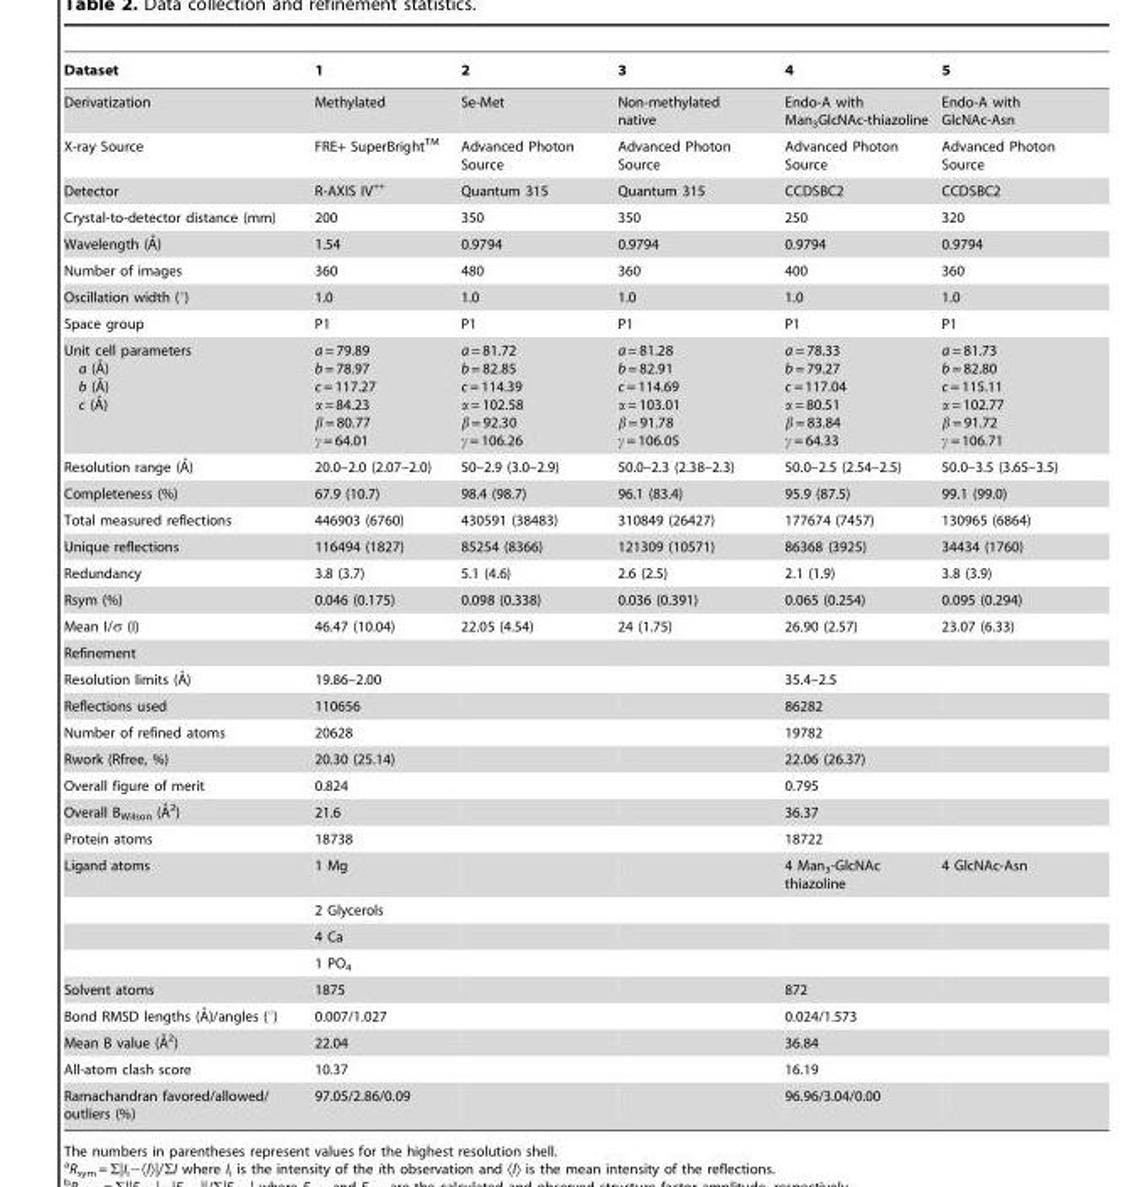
<table><thead><tr><td>Dataset</td><td>1</td><td>2</td><td>3</td><td>4</td><td>5</td></tr></thead><tbody><tr><td>Derivatization</td><td>Methylated</td><td>Se-Met</td><td>Non-methylated native</td><td>Endo-A with Man<sub>3</sub>GlcNAc-thiazoline</td><td>Endo-A with GlcNAc-Asn</td></tr><tr><td>X-ray Source</td><td>FRE+ SuperBrightTM</td><td>Advanced Photon Source</td><td>Advanced Photon Source</td><td>Advanced Photon Source</td><td>Advanced Photon Source</td></tr><tr><td>Detector</td><td>R-AXIS IV<sup>++</sup></td><td>Quantum 315</td><td>Quantum 315</td><td>CCDSBC2</td><td>CCDSBC2</td></tr><tr><td>Crystal-to-detector distance (mm)</td><td>200</td><td>350</td><td>350</td><td>250</td><td>320</td></tr><tr><td>Wavelength (A˚)</td><td>1.54</td><td>0.9794</td><td>0.9794</td><td>0.9794</td><td>0.9794</td></tr><tr><td>Number of images</td><td>360</td><td>480</td><td>360</td><td>400</td><td>360</td></tr><tr><td>Oscillation width (°)</td><td>1.0</td><td>1.0</td><td>1.0</td><td>1.0</td><td>1.0</td></tr><tr><td>Space group</td><td>P1</td><td>P1</td><td>P1</td><td>P1</td><td>P1</td></tr><tr><td>Unit cell parameters a (A˚) b (A˚) c (A˚)</td><td>a = 79.89 b = 78.97 c = 117.27 α = 84.23 β = 80.77 γ = 64.01</td><td>a = 81.72 b = 82.85 c = 114.39 α = 102.58 β = 92.30 γ = 106.26</td><td>a = 81.28 b = 82.91 c = 114.69 α = 103.01 β = 91.78 γ = 106.05</td><td>a = 78.33 b = 79.27 c = 117.04 α = 80.51 β = 83.84 γ = 64.33</td><td>a = 81.73 b = 82.80 c = 115.11 α = 102.77 β = 91.72 γ = 106.71</td></tr><tr><td>Resolution range (A˚)</td><td>20.0–2.0 (2.07–2.0)</td><td>50–2.9 (3.0–2.9)</td><td>50.0–2.3 (2.38–2.3)</td><td>50.0–2.5 (2.54–2.5)</td><td>50.0–3.5 (3.65–3.5)</td></tr><tr><td>Completeness (%)</td><td>67.9 (10.7)</td><td>98.4 (98.7)</td><td>96.1 (83.4)</td><td>95.9 (87.5)</td><td>99.1 (99.0)</td></tr><tr><td>Total measured reflections</td><td>446903 (6760)</td><td>430591 (38483)</td><td>310849 (26427)</td><td>177674 (7457)</td><td>130965 (6864)</td></tr><tr><td>Unique reflections</td><td>116494 (1827)</td><td>85254 (8366)</td><td>121309 (10571)</td><td>86368 (3925)</td><td>34434 (1760)</td></tr><tr><td>Redundancy</td><td>3.8 (3.7)</td><td>5.1 (4.6)</td><td>2.6 (2.5)</td><td>2.1 (1.9)</td><td>3.8 (3.9)</td></tr><tr><td>Rsym (%)</td><td>0.046 (0.175)</td><td>0.098 (0.338)</td><td>0.036 (0.391)</td><td>0.065 (0.254)</td><td>0.095 (0.294)</td></tr><tr><td>Mean I/σ (I)</td><td>46.47 (10.04)</td><td>22.05 (4.54)</td><td>24 (1.75)</td><td>26.90 (2.57)</td><td>23.07 (6.33)</td></tr><tr><td colspan="6">Refinement</td></tr><tr><td>Resolution limits (A˚)</td><td>19.86–2.00</td><td></td><td></td><td>35.4–2.5</td><td></td></tr><tr><td>Reflections used</td><td>110656</td><td></td><td></td><td>86282</td><td></td></tr><tr><td>Number of refined atoms</td><td>20628</td><td></td><td></td><td>19782</td><td></td></tr><tr><td>Rwork (Rfree, %)</td><td>20.30 (25.14)</td><td></td><td></td><td>22.06 (26.37)</td><td></td></tr><tr><td>Overall figure of merit</td><td>0.824</td><td></td><td></td><td>0.795</td><td></td></tr><tr><td>Overall BWilson (A˚ 2)</td><td>21.6</td><td></td><td></td><td>36.37</td><td></td></tr><tr><td>Protein atoms</td><td>18738</td><td></td><td></td><td>18722</td><td></td></tr><tr><td rowspan="4">Ligand atoms</td><td>1 Mg</td><td></td><td></td><td>4 Man<sub>3</sub>-GlcNAc thiazoline</td><td>4 GlcNAc-Asn</td></tr><tr><td>2 Glycerols</td><td></td><td></td><td></td><td></td></tr><tr><td>4 Ca</td><td></td><td></td><td></td><td></td></tr><tr><td>1 PO<sub>4</sub></td><td></td><td></td><td></td><td></td></tr><tr><td>Solvent atoms</td><td>1875</td><td></td><td></td><td>872</td><td></td></tr><tr><td>Bond RMSD lengths (A˚)/angles (u)</td><td>0.007/1.027</td><td></td><td></td><td>0.024/1.573</td><td></td></tr><tr><td>Mean B value (A˚2)</td><td>22.04</td><td></td><td></td><td>36.84</td><td></td></tr><tr><td>All-atom clash score</td><td>10.37</td><td></td><td></td><td>16.19</td><td></td></tr><tr><td>Ramachandran favored/allowed/ outliers (%)</td><td>97.05/2.86/0.09</td><td></td><td></td><td>96.96/3.04/0.00</td><td></td></tr></tbody></table>